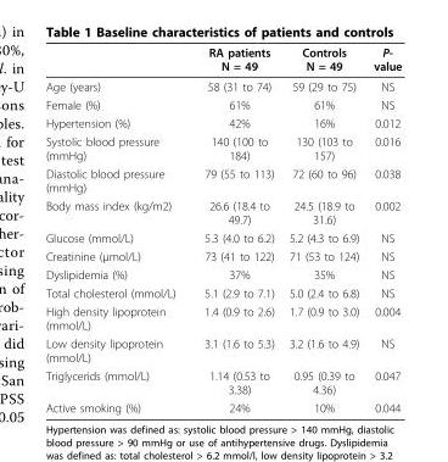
<table><thead><tr><td></td><td>RA patients N = 49</td><td>Controls N = 49</td><td>P- value</td></tr></thead><tbody><tr><td>Age (years)</td><td>58 (31 to 74)</td><td>59 (29 to 75)</td><td>NS</td></tr><tr><td>Female (%)</td><td>61%</td><td>61%</td><td>NS</td></tr><tr><td>Hypertension (%)</td><td>42%</td><td>16%</td><td>0.012</td></tr><tr><td>Systolic blood pressure (mmHg)</td><td>140 (100 to 184)</td><td>130 (103 to 157)</td><td>0.016</td></tr><tr><td>Diastolic blood pressure (mmHg)</td><td>79 (55 to 113)</td><td>72 (60 to 96)</td><td>0.038</td></tr><tr><td>Body mass index (kg/m2)</td><td>26.6 (18.4 to 49.7)</td><td>24.5 (18.9 to 31.6)</td><td>0.002</td></tr><tr><td>Glucose (mmol/L)</td><td>5.3 (4.0 to 6.2)</td><td>5.2 (4.3 to 6.9)</td><td>NS</td></tr><tr><td>Creatinine (μmol/L)</td><td>73 (41 to 122)</td><td>71 (53 to 124)</td><td>NS</td></tr><tr><td>Dyslipidemia (%)</td><td>37%</td><td>35%</td><td>NS</td></tr><tr><td>Total cholesterol (mmol/L)</td><td>5.1 (2.9 to 7.1)</td><td>5.0 (2.4 to 6.8)</td><td>NS</td></tr><tr><td>High density lipoprotein (mmol/L)</td><td>1.4 (0.9 to 2.6)</td><td>1.7 (0.9 to 3.0)</td><td>0.004</td></tr><tr><td>Low density lipoprotein (mmol/L)</td><td>3.1 (1.6 to 5.3)</td><td>3.2 (1.6 to 4.9)</td><td>NS</td></tr><tr><td>Triglycerids (mmol/L)</td><td>1.14 (0.53 to 3.38)</td><td>0.95 (0.39 to 4.36)</td><td>0.047</td></tr><tr><td>Active smoking (%)</td><td>24%</td><td>10%</td><td>0.044</td></tr></tbody></table>